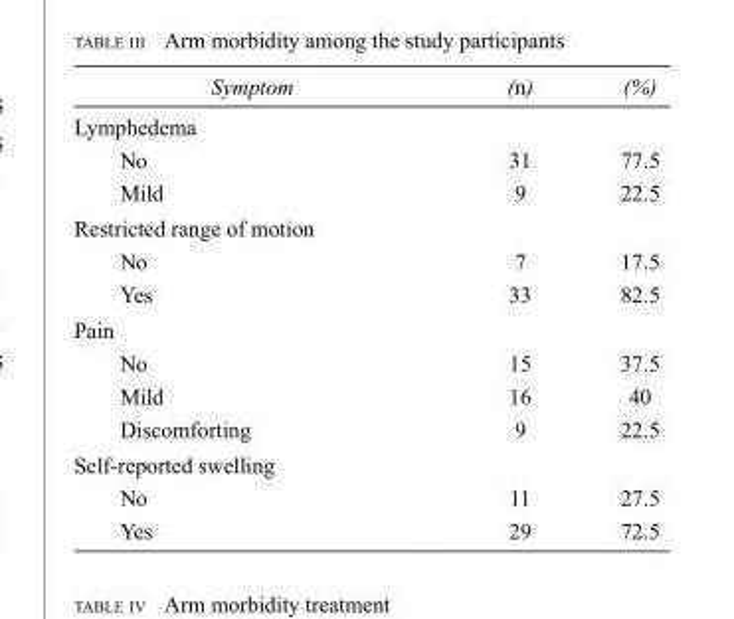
<table><thead><tr><td>Symptom</td><td>(n)</td><td>(%)</td></tr></thead><tbody><tr><td colspan="3">Lymphedema</td></tr><tr><td>No</td><td>31</td><td>77.5</td></tr><tr><td>Mild</td><td>9</td><td>22.5</td></tr><tr><td colspan="3">Restricted range of motion</td></tr><tr><td>No</td><td>7</td><td>17.5</td></tr><tr><td>Yes</td><td>33</td><td>82.5</td></tr><tr><td colspan="3">Pain</td></tr><tr><td>No</td><td>15</td><td>37.5</td></tr><tr><td>Mild</td><td>16</td><td>40</td></tr><tr><td>Discomforting</td><td>9</td><td>22.5</td></tr><tr><td colspan="3">Self-reported swelling</td></tr><tr><td>No</td><td>11</td><td>27.5</td></tr><tr><td>Yes</td><td>29</td><td>72.5</td></tr></tbody></table>